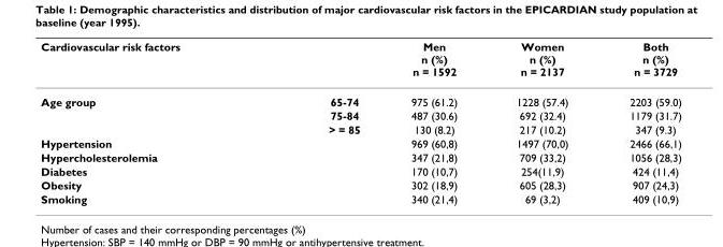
<table><thead><tr><td>Cardiovascular risk factors</td><td></td><td>Men n (%) n = 1592</td><td>Women n (%) n = 2137</td><td>Both n (%) n = 3729</td></tr></thead><tbody><tr><td rowspan="3">Age group</td><td>65-74</td><td>975 (61.2)</td><td>1228 (57.4)</td><td>2203 (59.0)</td></tr><tr><td>75-84</td><td>487 (30.6)</td><td>692 (32.4)</td><td>1179 (31.7)</td></tr><tr><td>&gt; = 85</td><td>130 (8.2)</td><td>217 (10.2)</td><td>347 (9.3)</td></tr><tr><td>Hypertension</td><td></td><td>969 (60,8)</td><td>1497 (70,0)</td><td>2466 (66,1)</td></tr><tr><td>Hypercholesterolemia</td><td></td><td>347 (21,8)</td><td>709 (33,2)</td><td>1056 (28,3)</td></tr><tr><td>Diabetes</td><td></td><td>170 (10,7)</td><td>254(11,9)</td><td>424 (11,4)</td></tr><tr><td>Obesity</td><td></td><td>302 (18,9)</td><td>605 (28,3)</td><td>907 (24,3)</td></tr><tr><td>Smoking</td><td></td><td>340 (21,4)</td><td>69 (3,2)</td><td>409 (10,9)</td></tr></tbody></table>